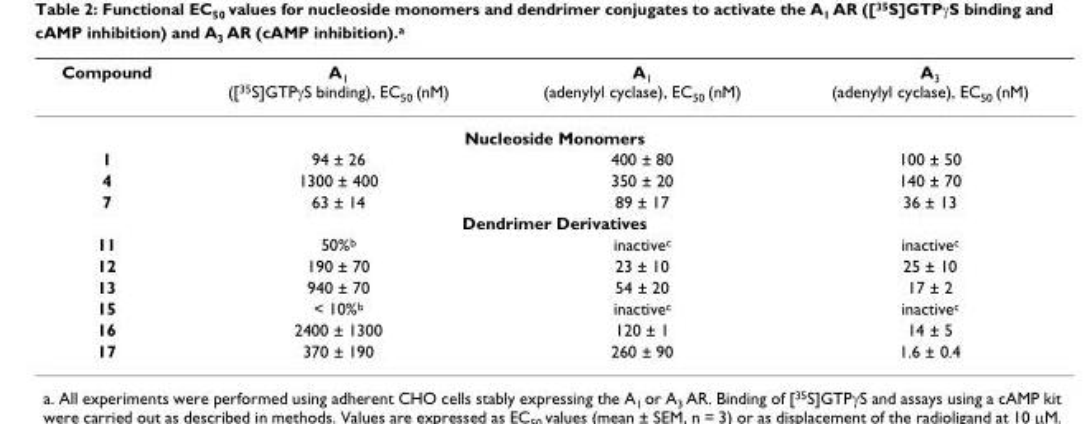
<table><thead><tr><td>Compound</td><td>A<sub>1</sub> ([<sup>35</sup>S]GTPγS binding), EC<sub>50</sub> (nM)</td><td>A<sub>1</sub> (adenylyl cyclase), EC<sub>50</sub> (nM)</td><td>A<sub>3</sub> (adenylyl cyclase), EC<sub>50</sub> (nM)</td></tr></thead><tbody><tr><td colspan="4">Nucleoside Monomers</td></tr><tr><td>1</td><td>94 ± 26</td><td>400 ± 80</td><td>100 ± 50</td></tr><tr><td>4</td><td>1300 ± 400</td><td>350 ± 20</td><td>140 ± 70</td></tr><tr><td>7</td><td>63 ± 14</td><td>89 ± 17</td><td>36 ± 13</td></tr><tr><td colspan="4">Dendrimer Derivatives</td></tr><tr><td>11</td><td>50%<sup>b</sup></td><td>inactive<sup>c</sup></td><td>inactive<sup>c</sup></td></tr><tr><td>12</td><td>190 ± 70</td><td>23 ± 10</td><td>25 ± 10</td></tr><tr><td>13</td><td>940 ± 70</td><td>54 ± 20</td><td>17 ± 2</td></tr><tr><td>15</td><td>&lt; 10%<sup>b</sup></td><td>inactive<sup>c</sup></td><td>inactive<sup>c</sup></td></tr><tr><td>16</td><td>2400 ± 1300</td><td>120 ± 1</td><td>14 ± 5</td></tr><tr><td>17</td><td>370 ± 190</td><td>260 ± 90</td><td>1.6 ± 0.4</td></tr></tbody></table>